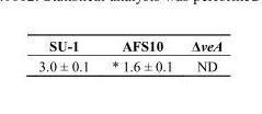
<table><thead><tr><td>SU-1</td><td>AFS10</td><td>ΔveA</td></tr></thead><tbody><tr><td>3.0 ± 0.1</td><td>* 1.6 ± 0.1</td><td>ND</td></tr></tbody></table>